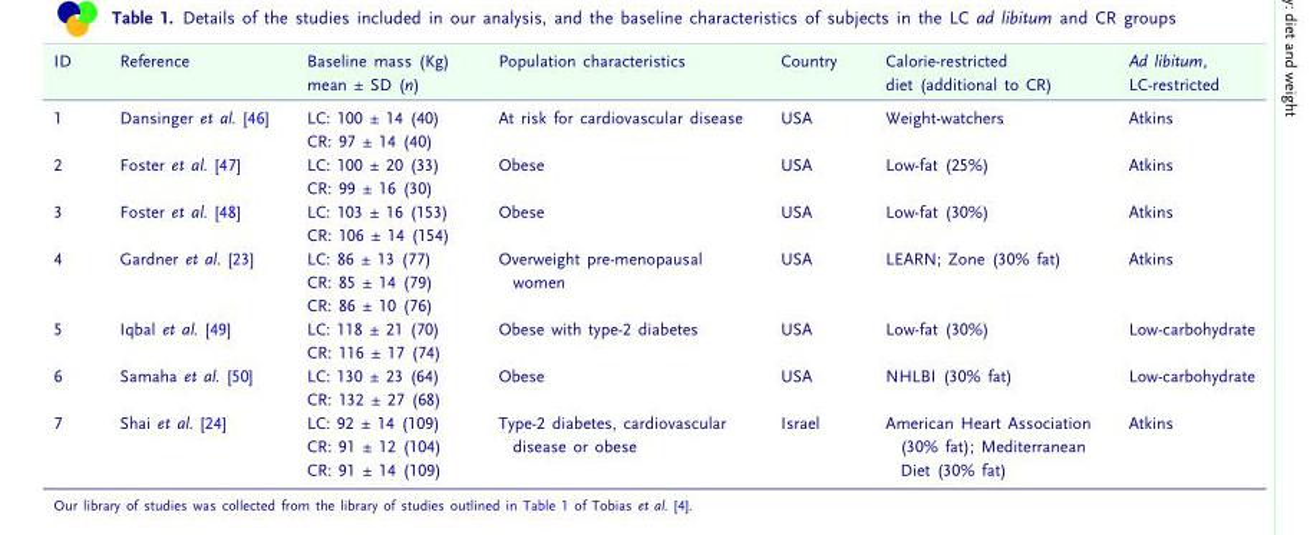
<table><thead><tr><td>ID</td><td>Reference</td><td>Baseline mass (Kg) mean ± SD (n)</td><td>Population characteristics</td><td>Country</td><td>Calorie-restricted diet (additional to CR)</td><td>Ad libitum, LC-restricted</td></tr></thead><tbody><tr><td rowspan="2">1</td><td rowspan="2">Dansinger et al. [46]</td><td>LC: 100 ± 14 (40)</td><td rowspan="2">At risk for cardiovascular disease</td><td rowspan="2">USA</td><td rowspan="2">Weight-watchers</td><td rowspan="2">Atkins</td></tr><tr><td>CR: 97 ± 14 (40)</td></tr><tr><td rowspan="2">2</td><td rowspan="2">Foster et al. [47]</td><td>LC: 100 ± 20 (33)</td><td rowspan="2">Obese</td><td rowspan="2">USA</td><td rowspan="2">Low-fat (25%)</td><td rowspan="2">Atkins</td></tr><tr><td>CR: 99 ± 16 (30)</td></tr><tr><td rowspan="2">3</td><td rowspan="2">Foster et al. [48]</td><td>LC: 103 ± 16 (153)</td><td rowspan="2">Obese</td><td rowspan="2">USA</td><td rowspan="2">Low-fat (30%)</td><td rowspan="2">Atkins</td></tr><tr><td>CR: 106 ± 14 (154)</td></tr><tr><td rowspan="3">4</td><td rowspan="3">Gardner et al. [23]</td><td>LC: 86 ± 13 (77)</td><td rowspan="3">Overweight pre-menopausal women</td><td rowspan="3">USA</td><td rowspan="3">LEARN; Zone (30% fat)</td><td rowspan="3">Atkins</td></tr><tr><td>CR: 85 ± 14 (79)</td></tr><tr><td>CR: 86 ± 10 (76)</td></tr><tr><td rowspan="2">5</td><td rowspan="2">Iqbal et al. [49]</td><td>LC: 118 ± 21 (70)</td><td rowspan="2">Obese with type-2 diabetes</td><td rowspan="2">USA</td><td rowspan="2">Low-fat (30%)</td><td rowspan="2">Low-carbohydrate</td></tr><tr><td>CR: 116 ± 17 (74)</td></tr><tr><td rowspan="2">6</td><td rowspan="2">Samaha et al. [50]</td><td>LC: 130 ± 23 (64)</td><td rowspan="2">Obese</td><td rowspan="2">USA</td><td rowspan="2">NHLBI (30% fat)</td><td rowspan="2">Low-carbohydrate</td></tr><tr><td>CR: 132 ± 27 (68)</td></tr><tr><td rowspan="3">7</td><td rowspan="3">Shai et al. [24]</td><td>LC: 92 ± 14 (109)</td><td rowspan="3">Type-2 diabetes, cardiovascular disease or obese</td><td rowspan="3">Israel</td><td rowspan="3">American Heart Association (30% fat); Mediterranean Diet (30% fat)</td><td rowspan="3">Atkins</td></tr><tr><td>CR: 91 ± 12 (104)</td></tr><tr><td>CR: 91 ± 14 (109)</td></tr></tbody></table>